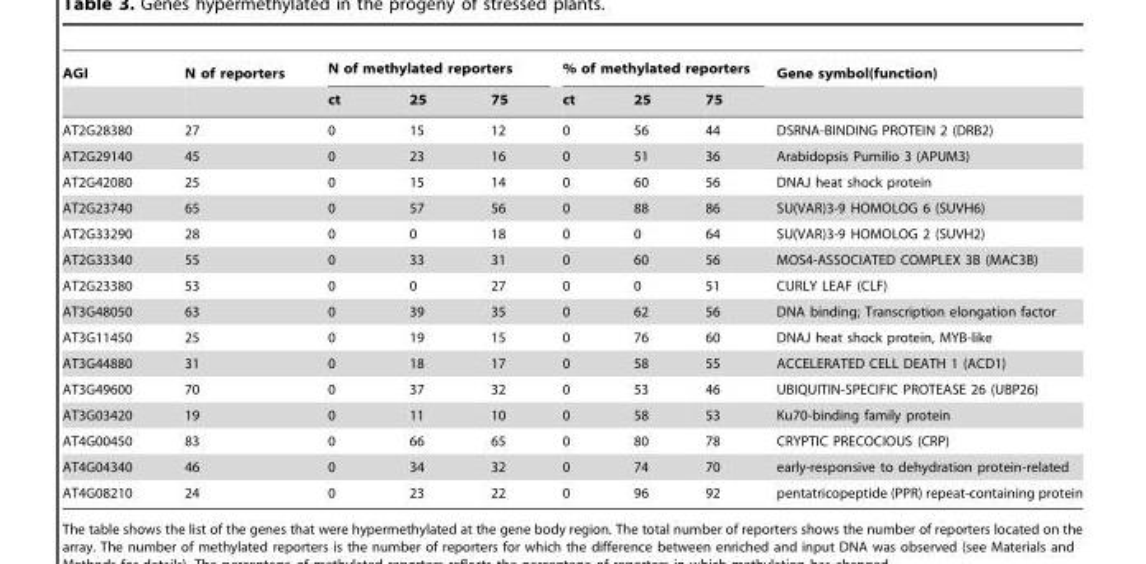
<table><thead><tr><td rowspan="2">AGI</td><td rowspan="2">N of reporters</td><td colspan="3">N of methylated reporters</td><td colspan="3">% of methylated reporters</td><td rowspan="2">Gene symbol(function)</td></tr><tr><td>ct</td><td>25</td><td>75</td><td>ct</td><td>25</td><td>75</td></tr></thead><tbody><tr><td>AT2G28380</td><td>27</td><td>0</td><td>15</td><td>12</td><td>0</td><td>56</td><td>44</td><td>DSRNA-BINDING PROTEIN 2 (DRB2)</td></tr><tr><td>AT2G29140</td><td>45</td><td>0</td><td>23</td><td>16</td><td>0</td><td>51</td><td>36</td><td>Arabidopsis Pumilio 3 (APUM3)</td></tr><tr><td>AT2G42080</td><td>25</td><td>0</td><td>15</td><td>14</td><td>0</td><td>60</td><td>56</td><td>DNAJ heat shock protein</td></tr><tr><td>AT2G23740</td><td>65</td><td>0</td><td>57</td><td>56</td><td>0</td><td>88</td><td>86</td><td>SU(VAR)3-9 HOMOLOG 6 (SUVH6)</td></tr><tr><td>AT2G33290</td><td>28</td><td>0</td><td>0</td><td>18</td><td>0</td><td>0</td><td>64</td><td>SU(VAR)3-9 HOMOLOG 2 (SUVH2)</td></tr><tr><td>AT2G33340</td><td>55</td><td>0</td><td>33</td><td>31</td><td>0</td><td>60</td><td>56</td><td>MOS4-ASSOCIATED COMPLEX 3B (MAC3B)</td></tr><tr><td>AT2G23380</td><td>53</td><td>0</td><td>0</td><td>27</td><td>0</td><td>0</td><td>51</td><td>CURLY LEAF (CLF)</td></tr><tr><td>AT3G48050</td><td>63</td><td>0</td><td>39</td><td>35</td><td>0</td><td>62</td><td>56</td><td>DNA binding; Transcription elongation factor</td></tr><tr><td>AT3G11450</td><td>25</td><td>0</td><td>19</td><td>15</td><td>0</td><td>76</td><td>60</td><td>DNAJ heat shock protein, MYB-like</td></tr><tr><td>AT3G44880</td><td>31</td><td>0</td><td>18</td><td>17</td><td>0</td><td>58</td><td>55</td><td>ACCELERATED CELL DEATH 1 (ACD1)</td></tr><tr><td>AT3G49600</td><td>70</td><td>0</td><td>37</td><td>32</td><td>0</td><td>53</td><td>46</td><td>UBIQUITIN-SPECIFIC PROTEASE 26 (UBP26)</td></tr><tr><td>AT3G03420</td><td>19</td><td>0</td><td>11</td><td>10</td><td>0</td><td>58</td><td>53</td><td>Ku70-binding family protein</td></tr><tr><td>AT4G00450</td><td>83</td><td>0</td><td>66</td><td>65</td><td>0</td><td>80</td><td>78</td><td>CRYPTIC PRECOCIOUS (CRP)</td></tr><tr><td>AT4G04340</td><td>46</td><td>0</td><td>34</td><td>32</td><td>0</td><td>74</td><td>70</td><td>early-responsive to dehydration protein-related</td></tr><tr><td>AT4G08210</td><td>24</td><td>0</td><td>23</td><td>22</td><td>0</td><td>96</td><td>92</td><td>pentatricopeptide (PPR) repeat-containing protein</td></tr></tbody></table>